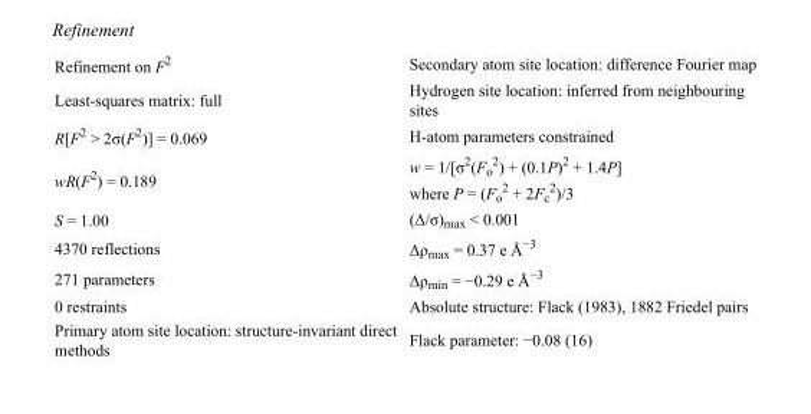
<table><tbody><tr><td>Refinement on F<sup>2</sup></td><td>Secondary atom site location: difference Fourier map</td></tr><tr><td>Least-squares matrix: full</td><td>Hydrogen site location: inferred from neighbouring sites</td></tr><tr><td>R[F<sup>2</sup> &gt; 2σ(F<sup>2</sup>)] = 0.069</td><td>H-atom parameters constrained</td></tr><tr><td>wR(F<sup>2</sup>) = 0.189</td><td>w = 1/[σ<sup>2</sup>(F<sub>o</sub> <sup>2</sup>) + (0.1P)<sup>2</sup> + 1.4P] where P = (F<sub>o</sub> <sup>2</sup> + 2F<sub>c</sub> <sup>2</sup>)/3</td></tr><tr><td>S = 1.00</td><td>(Δ/σ)<sub>max</sub> &lt; 0.001</td></tr><tr><td>4370 reflections</td><td>Δρ<sub>max</sub> = 0.37 e Å<sup>−3</sup></td></tr><tr><td>271 parameters</td><td>Δρ<sub>min</sub> = −0.29 e Å<sup>−3</sup></td></tr><tr><td>0 restraints</td><td>Absolute structure: Flack (1983), 1882 Friedel pairs</td></tr><tr><td>Primary atom site location: structure-invariant direct methods</td><td>Flack parameter: −0.08 (16)</td></tr></tbody></table>